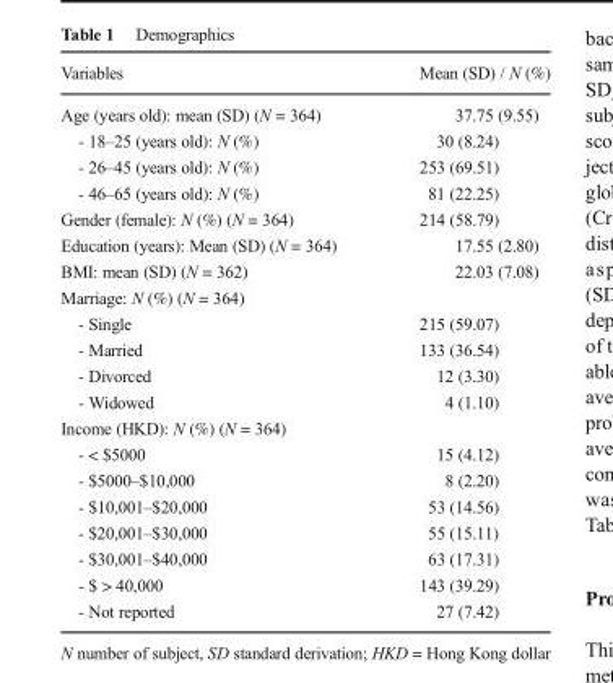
<table><thead><tr><td>Variables</td><td>Mean (SD) / N (%)</td></tr></thead><tbody><tr><td>Age (years old): mean (SD) (N = 364)</td><td>37.75 (9.55)</td></tr><tr><td>- 18–25 (years old): N (%)</td><td>30 (8.24)</td></tr><tr><td>- 26–45 (years old): N (%)</td><td>253 (69.51)</td></tr><tr><td>- 46–65 (years old): N (%)</td><td>81 (22.25)</td></tr><tr><td>Gender (female): N (%) (N = 364)</td><td>214 (58.79)</td></tr><tr><td>Education (years): Mean (SD) (N = 364)</td><td>17.55 (2.80)</td></tr><tr><td>BMI: mean (SD) (N = 362)</td><td>22.03 (7.08)</td></tr><tr><td colspan="2">Marriage: N (%) (N = 364)</td></tr><tr><td>- Single</td><td>215 (59.07)</td></tr><tr><td>- Married</td><td>133 (36.54)</td></tr><tr><td>- Divorced</td><td>12 (3.30)</td></tr><tr><td>- Widowed</td><td>4 (1.10)</td></tr><tr><td colspan="2">Income (HKD): N (%) (N = 364)</td></tr><tr><td>- &lt; $5000</td><td>15 (4.12)</td></tr><tr><td>- $5000–$10,000</td><td>8 (2.20)</td></tr><tr><td>- $10,001–$20,000</td><td>53 (14.56)</td></tr><tr><td>- $20,001–$30,000</td><td>55 (15.11)</td></tr><tr><td>- $30,001–$40,000</td><td>63 (17.31)</td></tr><tr><td>- $ &gt; 40,000</td><td>143 (39.29)</td></tr><tr><td>- Not reported</td><td>27 (7.42)</td></tr></tbody></table>